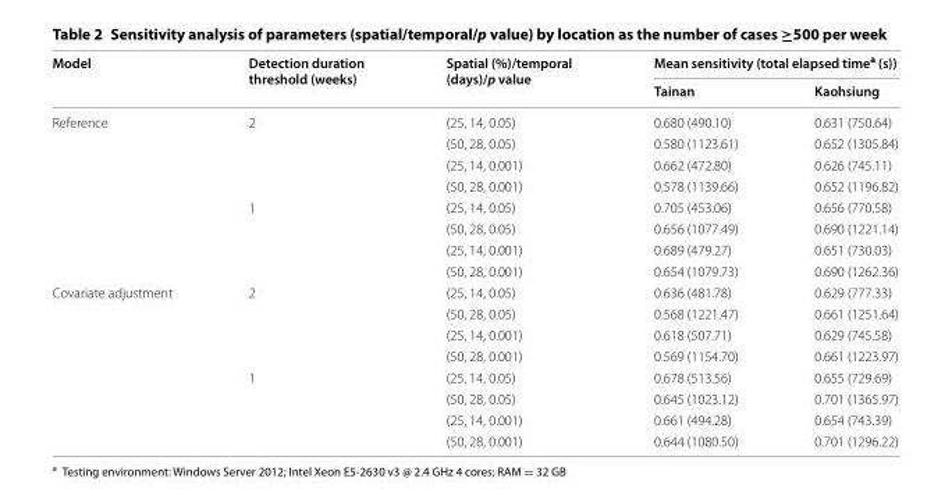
<table><thead><tr><td rowspan="2">Model</td><td rowspan="2">Detection duration threshold (weeks)</td><td rowspan="2">Spatial (%)/temporal (days)/p value</td><td colspan="2">Mean sensitivity (total elapsed time<sup>a</sup> (s))</td></tr><tr><td>Tainan</td><td>Kaohsiung</td></tr></thead><tbody><tr><td rowspan="8">Reference</td><td rowspan="4">2</td><td>(25, 14, 0.05)</td><td>0.680 (490.10)</td><td>0.631 (750.64)</td></tr><tr><td>(50, 28, 0.05)</td><td>0.580 (1123.61)</td><td>0.652 (1305.84)</td></tr><tr><td>(25, 14, 0.001)</td><td>0.662 (472.80)</td><td>0.626 (745.11)</td></tr><tr><td>(50, 28, 0.001)</td><td>0.578 (1139.66)</td><td>0.652 (1196.82)</td></tr><tr><td rowspan="4">1</td><td>(25, 14, 0.05)</td><td>0.705 (453.06)</td><td>0.656 (770.58)</td></tr><tr><td>(50, 28, 0.05)</td><td>0.656 (1077.49)</td><td>0.690 (1221.14)</td></tr><tr><td>(25, 14, 0.001)</td><td>0.689 (479.27)</td><td>0.651 (730.03)</td></tr><tr><td>(50, 28, 0.001)</td><td>0.654 (1079.73)</td><td>0.690 (1262.36)</td></tr><tr><td rowspan="8">Covariate adjustment</td><td rowspan="4">2</td><td>(25, 14, 0.05)</td><td>0.636 (481.78)</td><td>0.629 (777.33)</td></tr><tr><td>(50, 28, 0.05)</td><td>0.568 (1221.47)</td><td>0.661 (1251.64)</td></tr><tr><td>(25, 14, 0.001)</td><td>0.618 (507.71)</td><td>0.629 (745.58)</td></tr><tr><td>(50, 28, 0.001)</td><td>0.569 (1154.70)</td><td>0.661 (1223.97)</td></tr><tr><td rowspan="4">1</td><td>(25, 14, 0.05)</td><td>0.678 (513.56)</td><td>0.655 (729.69)</td></tr><tr><td>(50, 28, 0.05)</td><td>0.645 (1023.12)</td><td>0.701 (1365.97)</td></tr><tr><td>(25, 14, 0.001)</td><td>0.661 (494.28)</td><td>0.654 (743.39)</td></tr><tr><td>(50, 28, 0.001)</td><td>0.644 (1080.50)</td><td>0.701 (1296.22)</td></tr></tbody></table>